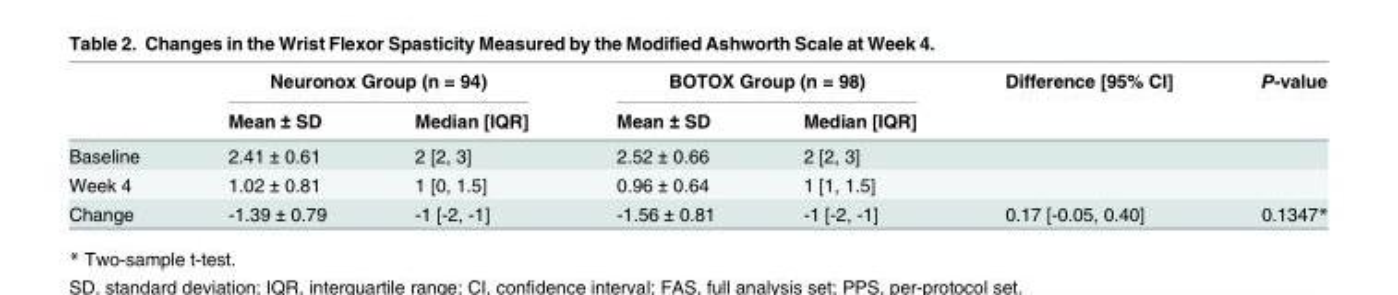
<table><thead><tr><td rowspan="2"></td><td colspan="2">Neuronox Group (n = 94)</td><td colspan="2">BOTOX Group (n = 98)</td><td rowspan="2">Difference [95% CI]</td><td rowspan="2">P-value</td></tr><tr><td>Mean ± SD</td><td>Median [IQR]</td><td>Mean ± SD</td><td>Median [IQR]</td></tr></thead><tbody><tr><td>Baseline</td><td>2.41 ± 0.61</td><td>2 [2, 3]</td><td>2.52 ± 0.66</td><td>2 [2, 3]</td><td></td><td></td></tr><tr><td>Week 4</td><td>1.02 ± 0.81</td><td>1 [0, 1.5]</td><td>0.96 ± 0.64</td><td>1 [1, 1.5]</td><td></td><td></td></tr><tr><td>Change</td><td>-1.39 ± 0.79</td><td>-1 [-2, -1]</td><td>-1.56 ± 0.81</td><td>-1 [-2, -1]</td><td>0.17 [-0.05, 0.40]</td><td>0.1347*</td></tr></tbody></table>